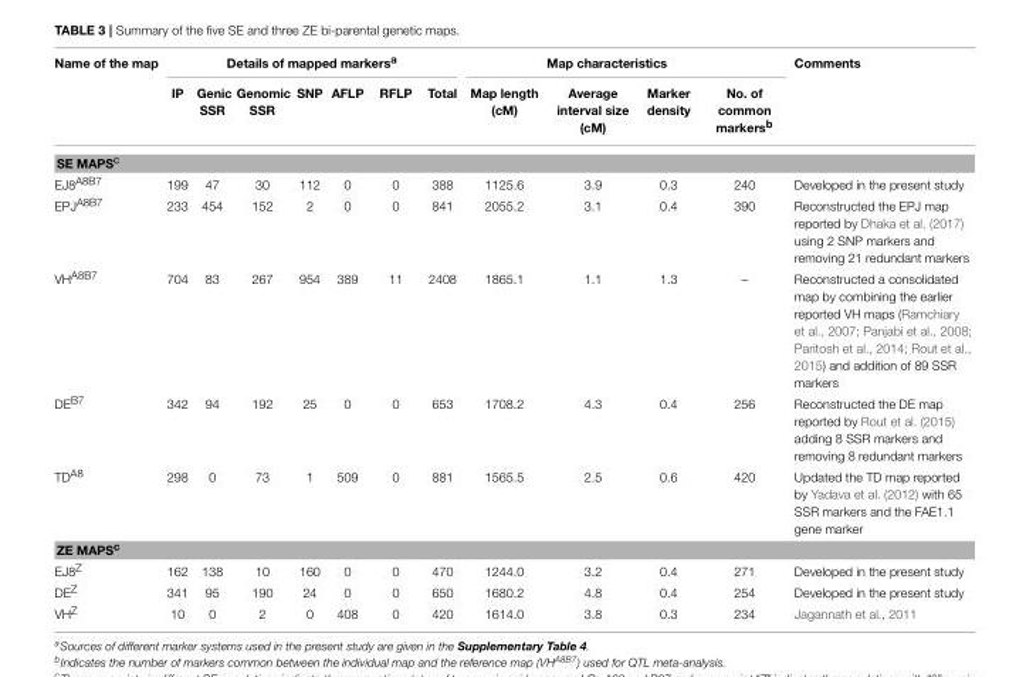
<table><thead><tr><td rowspan="2">Name of the map</td><td colspan="6">Details of mapped markers<sup>a</sup></td><td colspan="5">Map characteristics</td><td rowspan="2">Comments</td></tr><tr><td>IP</td><td>Genic SSR</td><td>Genomic SSR</td><td>SNP</td><td>AFLP</td><td>RFLP</td><td>Total</td><td>Map length (cM)</td><td>Average interval size (cM)</td><td>Marker density</td><td>No. of common markers<sup>b</sup></td></tr></thead><tbody><tr><td colspan="13">SE MAPS<sup>c</sup></td></tr><tr><td>EJ8<sup>A8B7</sup></td><td>199</td><td>47</td><td>30</td><td>112</td><td>0</td><td>0</td><td>388</td><td>1125.6</td><td>3.9</td><td>0.3</td><td>240</td><td>Developed in the present study</td></tr><tr><td>EPJ<sup>A8B7</sup></td><td>233</td><td>454</td><td>152</td><td>2</td><td>0</td><td>0</td><td>841</td><td>2055.2</td><td>3.1</td><td>0.4</td><td>390</td><td>Reconstructed the EPJ map reported by Dhaka et al. (2017) using 2 SNP markers and removing 21 redundant markers</td></tr><tr><td>VH<sup>A8B7</sup></td><td>704</td><td>83</td><td>267</td><td>954</td><td>389</td><td>11</td><td>2408</td><td>1865.1</td><td>1.1</td><td>1.3</td><td>–</td><td>Reconstructed a consolidated map by combining the earlier reported VH maps (Ramchiary et al., 2007; Panjabi et al., 2008; Paritosh et al., 2014; Rout et al., 2015) and addition of 89 SSR markers</td></tr><tr><td>DE<sup>B7</sup></td><td>342</td><td>94</td><td>192</td><td>25</td><td>0</td><td>0</td><td>653</td><td>1708.2</td><td>4.3</td><td>0.4</td><td>256</td><td>Reconstructed the DE map reported by Rout et al. (2015) adding 8 SSR markers and removing 8 redundant markers</td></tr><tr><td>TD<sup>A8</sup></td><td>298</td><td>0</td><td>73</td><td>1</td><td>509</td><td>0</td><td>881</td><td>1565.5</td><td>2.5</td><td>0.6</td><td>420</td><td>Updated the TD map reported by Yadava et al. (2012) with 65 SSR markers and the FAE1.1 gene marker</td></tr><tr><td colspan="13">ZE MAPS<sup>c</sup></td></tr><tr><td>EJ8<sup>Z</sup></td><td>162</td><td>138</td><td>10</td><td>160</td><td>0</td><td>0</td><td>470</td><td>1244.0</td><td>3.2</td><td>0.4</td><td>271</td><td>Developed in the present study</td></tr><tr><td>DE<sup>Z</sup></td><td>341</td><td>95</td><td>190</td><td>24</td><td>0</td><td>0</td><td>650</td><td>1680.2</td><td>4.8</td><td>0.4</td><td>254</td><td>Developed in the present study</td></tr><tr><td>VH<sup>Z</sup></td><td>10</td><td>0</td><td>2</td><td>0</td><td>408</td><td>0</td><td>420</td><td>1614.0</td><td>3.8</td><td>0.3</td><td>234</td><td>Jagannath et al., 2011</td></tr></tbody></table>